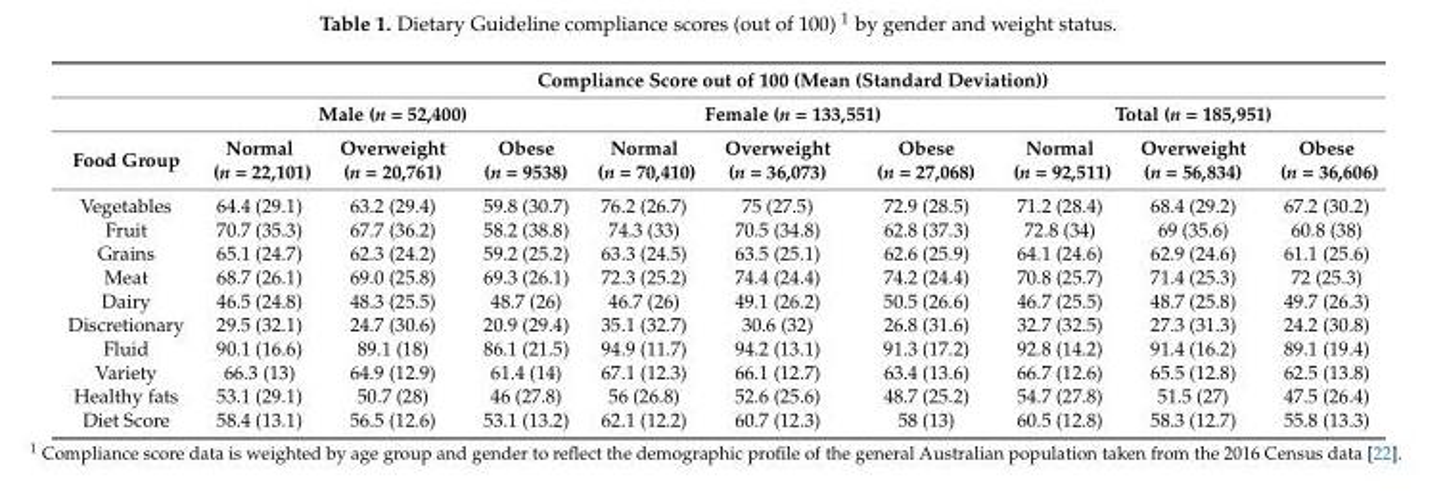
<table><thead><tr><td rowspan="3">Food Group</td><td colspan="9">Compliance Score out of 100 (Mean (Standard Deviation))</td></tr><tr><td colspan="3">Male (n = 52,400)</td><td colspan="3">Female (n = 133,551)</td><td colspan="3">Total (n = 185,951)</td></tr><tr><td>Normal (n = 22,101)</td><td>Overweight (n = 20,761)</td><td>Obese (n = 9538)</td><td>Normal (n = 70,410)</td><td>Overweight (n = 36,073)</td><td>Obese (n = 27,068)</td><td>Normal (n = 92,511)</td><td>Overweight (n = 56,834)</td><td>Obese (n = 36,606)</td></tr></thead><tbody><tr><td>Vegetables</td><td>64.4 (29.1)</td><td>63.2 (29.4)</td><td>59.8 (30.7)</td><td>76.2 (26.7)</td><td>75 (27.5)</td><td>72.9 (28.5)</td><td>71.2 (28.4)</td><td>68.4 (29.2)</td><td>67.2 (30.2)</td></tr><tr><td>Fruit</td><td>70.7 (35.3)</td><td>67.7 (36.2)</td><td>58.2 (38.8)</td><td>74.3 (33)</td><td>70.5 (34.8)</td><td>62.8 (37.3)</td><td>72.8 (34)</td><td>69 (35.6)</td><td>60.8 (38)</td></tr><tr><td>Grains</td><td>65.1 (24.7)</td><td>62.3 (24.2)</td><td>59.2 (25.2)</td><td>63.3 (24.5)</td><td>63.5 (25.1)</td><td>62.6 (25.9)</td><td>64.1 (24.6)</td><td>62.9 (24.6)</td><td>61.1 (25.6)</td></tr><tr><td>Meat</td><td>68.7 (26.1)</td><td>69.0 (25.8)</td><td>69.3 (26.1)</td><td>72.3 (25.2)</td><td>74.4 (24.4)</td><td>74.2 (24.4)</td><td>70.8 (25.7)</td><td>71.4 (25.3)</td><td>72 (25.3)</td></tr><tr><td>Dairy</td><td>46.5 (24.8)</td><td>48.3 (25.5)</td><td>48.7 (26)</td><td>46.7 (26)</td><td>49.1 (26.2)</td><td>50.5 (26.6)</td><td>46.7 (25.5)</td><td>48.7 (25.8)</td><td>49.7 (26.3)</td></tr><tr><td>Discretionary</td><td>29.5 (32.1)</td><td>24.7 (30.6)</td><td>20.9 (29.4)</td><td>35.1 (32.7)</td><td>30.6 (32)</td><td>26.8 (31.6)</td><td>32.7 (32.5)</td><td>27.3 (31.3)</td><td>24.2 (30.8)</td></tr><tr><td>Fluid</td><td>90.1 (16.6)</td><td>89.1 (18)</td><td>86.1 (21.5)</td><td>94.9 (11.7)</td><td>94.2 (13.1)</td><td>91.3 (17.2)</td><td>92.8 (14.2)</td><td>91.4 (16.2)</td><td>89.1 (19.4)</td></tr><tr><td>Variety</td><td>66.3 (13)</td><td>64.9 (12.9)</td><td>61.4 (14)</td><td>67.1 (12.3)</td><td>66.1 (12.7)</td><td>63.4 (13.6)</td><td>66.7 (12.6)</td><td>65.5 (12.8)</td><td>62.5 (13.8)</td></tr><tr><td>Healthy fats</td><td>53.1 (29.1)</td><td>50.7 (28)</td><td>46 (27.8)</td><td>56 (26.8)</td><td>52.6 (25.6)</td><td>48.7 (25.2)</td><td>54.7 (27.8)</td><td>51.5 (27)</td><td>47.5 (26.4)</td></tr><tr><td>Diet Score</td><td>58.4 (13.1)</td><td>56.5 (12.6)</td><td>53.1 (13.2)</td><td>62.1 (12.2)</td><td>60.7 (12.3)</td><td>58 (13)</td><td>60.5 (12.8)</td><td>58.3 (12.7)</td><td>55.8 (13.3)</td></tr></tbody></table>